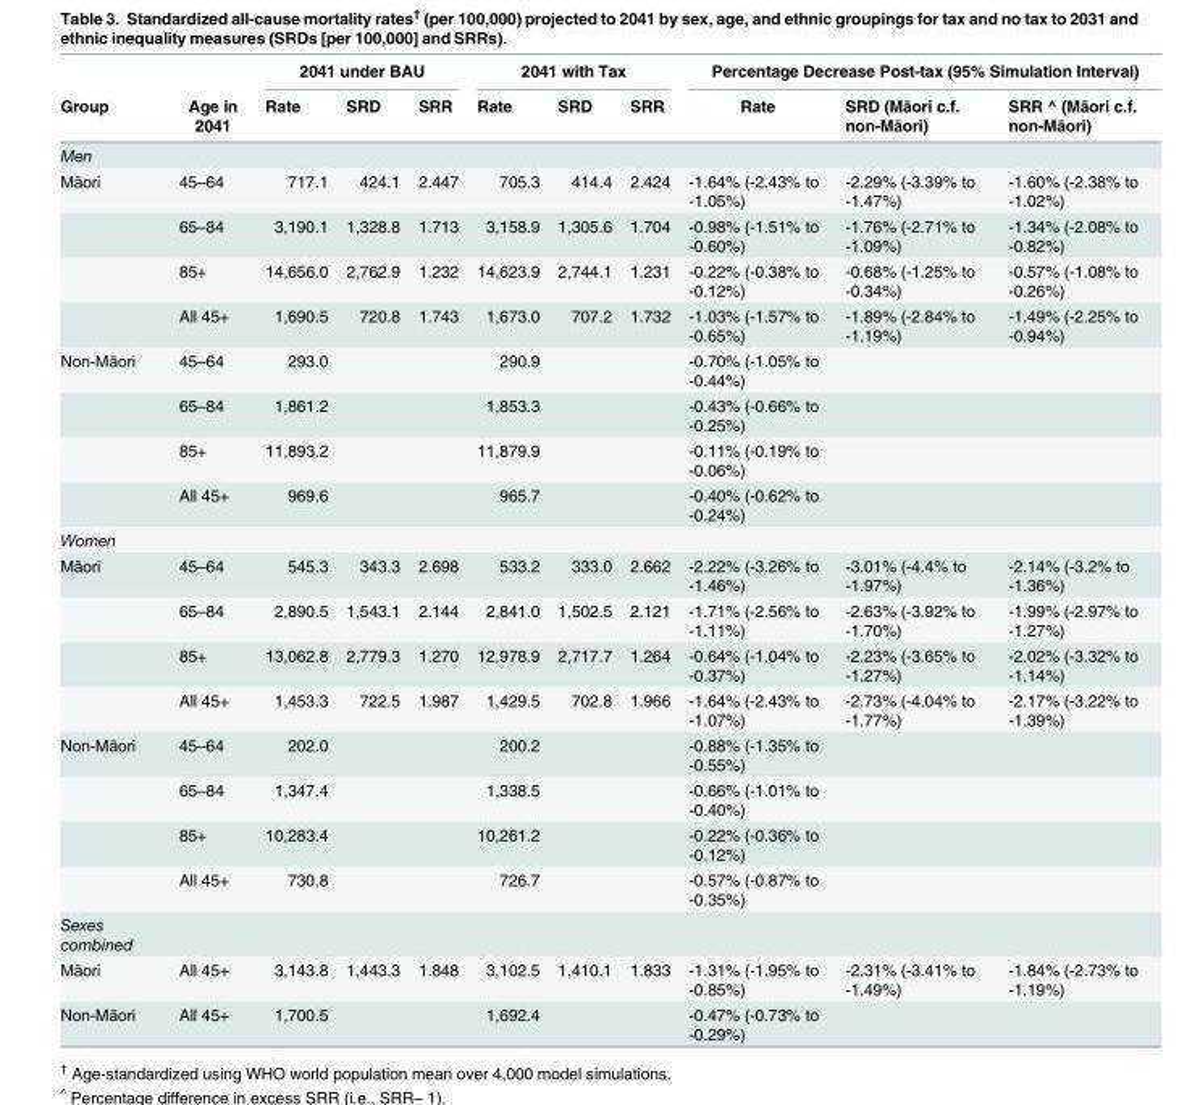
<table><thead><tr><td rowspan="2">Group</td><td rowspan="2">Age in 2041</td><td colspan="3">2041 under BAU</td><td colspan="3">2041 with Tax</td><td colspan="3">Percentage Decrease Post-tax (95% Simulation Interval)</td></tr><tr><td>Rate</td><td>SRD</td><td>SRR</td><td>Rate</td><td>SRD</td><td>SRR</td><td>Rate</td><td>SRD (Māori c.f. non-Māori)</td><td>SRR ^ (Māori c.f. non-Māori)</td></tr></thead><tbody><tr><td colspan="11">Men</td></tr><tr><td rowspan="4">Māori</td><td>45–64</td><td>717.1</td><td>424.1</td><td>2.447</td><td>705.3</td><td>414.4</td><td>2.424</td><td>-1.64% (-2.43% to -1.05%)</td><td>-2.29% (-3.39% to -1.47%)</td><td>-1.60% (-2.38% to -1.02%)</td></tr><tr><td>65–84</td><td>3,190.1</td><td>1,328.8</td><td>1.713</td><td>3,158.9</td><td>1,305.6</td><td>1.704</td><td>-0.98% (-1.51% to -0.60%)</td><td>-1.76% (-2.71% to -1.09%)</td><td>-1.34% (-2.08% to -0.82%)</td></tr><tr><td>85+</td><td>14,656.0</td><td>2,762.9</td><td>1.232</td><td>14,623.9</td><td>2,744.1</td><td>1.231</td><td>-0.22% (-0.38% to -0.12%)</td><td>-0.68% (-1.25% to -0.34%)</td><td>-0.57% (-1.08% to -0.26%)</td></tr><tr><td>All 45+</td><td>1,690.5</td><td>720.8</td><td>1.743</td><td>1,673.0</td><td>707.2</td><td>1.732</td><td>-1.03% (-1.57% to -0.65%)</td><td>-1.89% (-2.84% to -1.19%)</td><td>-1.49% (-2.25% to -0.94%)</td></tr><tr><td rowspan="4">Non-Māori</td><td>45–64</td><td>293.0</td><td></td><td></td><td>290.9</td><td></td><td></td><td>-0.70% (-1.05% to -0.44%)</td><td></td><td></td></tr><tr><td>65–84</td><td>1,861.2</td><td></td><td></td><td>1,853.3</td><td></td><td></td><td>-0.43% (-0.66% to -0.25%)</td><td></td><td></td></tr><tr><td>85+</td><td>11,893.2</td><td></td><td></td><td>11,879.9</td><td></td><td></td><td>-0.11% (-0.19% to -0.06%)</td><td></td><td></td></tr><tr><td>All 45+</td><td>969.6</td><td></td><td></td><td>965.7</td><td></td><td></td><td>-0.40% (-0.62% to -0.24%)</td><td></td><td></td></tr><tr><td colspan="11">Women</td></tr><tr><td rowspan="4">Māori</td><td>45–64</td><td>545.3</td><td>343.3</td><td>2.698</td><td>533.2</td><td>333.0</td><td>2.662</td><td>-2.22% (-3.26% to -1.46%)</td><td>-3.01% (-4.4% to -1.97%)</td><td>-2.14% (-3.2% to -1.36%)</td></tr><tr><td>65–84</td><td>2,890.5</td><td>1,543.1</td><td>2.144</td><td>2,841.0</td><td>1,502.5</td><td>2.121</td><td>-1.71% (-2.56% to -1.11%)</td><td>-2.63% (-3.92% to -1.70%)</td><td>-1.99% (-2.97% to -1.27%)</td></tr><tr><td>85+</td><td>13,062.8</td><td>2,779.3</td><td>1.270</td><td>12,978.9</td><td>2,717.7</td><td>1.264</td><td>-0.64% (-1.04% to -0.37%)</td><td>-2.23% (-3.65% to -1.27%)</td><td>-2.02% (-3.32% to -1.14%)</td></tr><tr><td>All 45+</td><td>1,453.3</td><td>722.5</td><td>1.987</td><td>1,429.5</td><td>702.8</td><td>1.966</td><td>-1.64% (-2.43% to -1.07%)</td><td>-2.73% (-4.04% to -1.77%)</td><td>-2.17% (-3.22% to -1.39%)</td></tr><tr><td rowspan="4">Non-Māori</td><td>45–64</td><td>202.0</td><td></td><td></td><td>200.2</td><td></td><td></td><td>-0.88% (-1.35% to -0.55%)</td><td></td><td></td></tr><tr><td>65–84</td><td>1,347.4</td><td></td><td></td><td>1,338.5</td><td></td><td></td><td>-0.66% (-1.01% to -0.40%)</td><td></td><td></td></tr><tr><td>85+</td><td>10,283.4</td><td></td><td></td><td>10,261.2</td><td></td><td></td><td>-0.22% (-0.36% to -0.12%)</td><td></td><td></td></tr><tr><td>All 45+</td><td>730.8</td><td></td><td></td><td>726.7</td><td></td><td></td><td>-0.57% (-0.87% to -0.35%)</td><td></td><td></td></tr><tr><td colspan="11">Sexes combined</td></tr><tr><td>Māori</td><td>All 45+</td><td>3,143.8</td><td>1,443.3</td><td>1.848</td><td>3,102.5</td><td>1,410.1</td><td>1.833</td><td>-1.31% (-1.95% to -0.85%)</td><td>-2.31% (-3.41% to -1.49%)</td><td>-1.84% (-2.73% to -1.19%)</td></tr><tr><td>Non-Māori</td><td>All 45+</td><td>1,700.5</td><td></td><td></td><td>1,692.4</td><td></td><td></td><td>-0.47% (-0.73% to -0.29%)</td><td></td><td></td></tr></tbody></table>